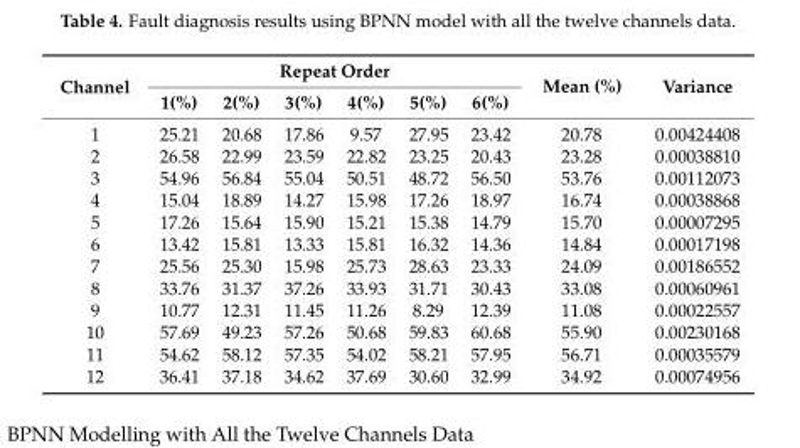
<table><thead><tr><td rowspan="2">Channel</td><td colspan="6">Repeat Order</td><td rowspan="2">Mean (%)</td><td rowspan="2">Variance</td></tr><tr><td>1(%)</td><td>2(%)</td><td>3(%)</td><td>4(%)</td><td>5(%)</td><td>6(%)</td></tr></thead><tbody><tr><td>1</td><td>25.21</td><td>20.68</td><td>17.86</td><td>9.57</td><td>27.95</td><td>23.42</td><td>20.78</td><td>0.00424408</td></tr><tr><td>2</td><td>26.58</td><td>22.99</td><td>23.59</td><td>22.82</td><td>23.25</td><td>20.43</td><td>23.28</td><td>0.00038810</td></tr><tr><td>3</td><td>54.96</td><td>56.84</td><td>55.04</td><td>50.51</td><td>48.72</td><td>56.50</td><td>53.76</td><td>0.00112073</td></tr><tr><td>4</td><td>15.04</td><td>18.89</td><td>14.27</td><td>15.98</td><td>17.26</td><td>18.97</td><td>16.74</td><td>0.00038868</td></tr><tr><td>5</td><td>17.26</td><td>15.64</td><td>15.90</td><td>15.21</td><td>15.38</td><td>14.79</td><td>15.70</td><td>0.00007295</td></tr><tr><td>6</td><td>13.42</td><td>15.81</td><td>13.33</td><td>15.81</td><td>16.32</td><td>14.36</td><td>14.84</td><td>0.00017198</td></tr><tr><td>7</td><td>25.56</td><td>25.30</td><td>15.98</td><td>25.73</td><td>28.63</td><td>23.33</td><td>24.09</td><td>0.00186552</td></tr><tr><td>8</td><td>33.76</td><td>31.37</td><td>37.26</td><td>33.93</td><td>31.71</td><td>30.43</td><td>33.08</td><td>0.00060961</td></tr><tr><td>9</td><td>10.77</td><td>12.31</td><td>11.45</td><td>11.26</td><td>8.29</td><td>12.39</td><td>11.08</td><td>0.00022557</td></tr><tr><td>10</td><td>57.69</td><td>49.23</td><td>57.26</td><td>50.68</td><td>59.83</td><td>60.68</td><td>55.90</td><td>0.00230168</td></tr><tr><td>11</td><td>54.62</td><td>58.12</td><td>57.35</td><td>54.02</td><td>58.21</td><td>57.95</td><td>56.71</td><td>0.00035579</td></tr><tr><td>12</td><td>36.41</td><td>37.18</td><td>34.62</td><td>37.69</td><td>30.60</td><td>32.99</td><td>34.92</td><td>0.00074956</td></tr></tbody></table>